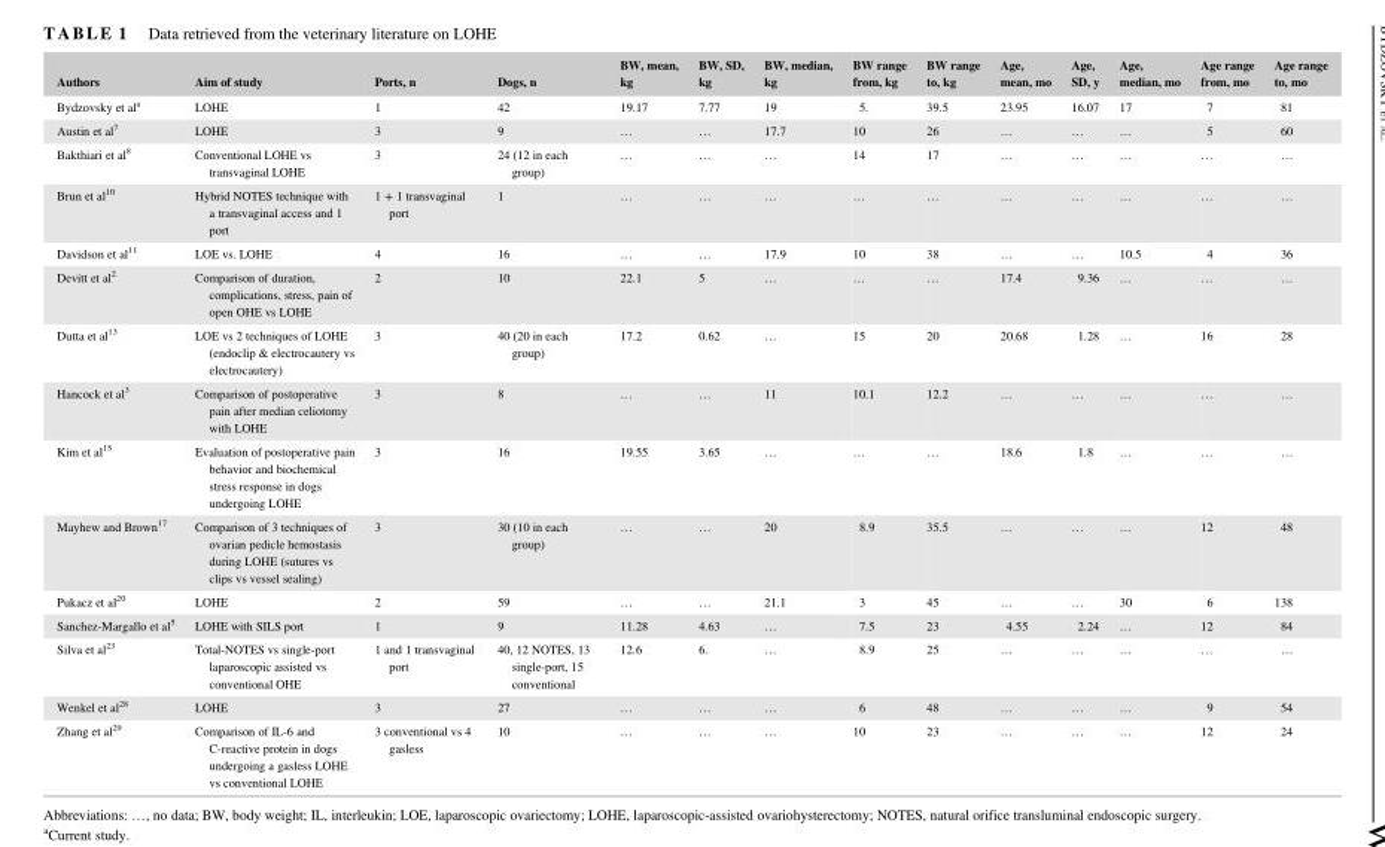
<table><thead><tr><td>Authors</td><td>Aim of study</td><td>Ports, n</td><td>Dogs, n</td><td>BW, mean, kg</td><td>BW, SD, kg</td><td>BW, median, kg</td><td>BW range from, kg</td><td>BW range to, kg</td><td>Age, mean, mo</td><td>Age, SD, y</td><td>Age, median, mo</td><td>Age range from, mo</td><td>Age range to, mo</td></tr></thead><tbody><tr><td>Bydzovsky et al<sup>a</sup></td><td>LOHE</td><td>1</td><td>42</td><td>19.17</td><td>7.77</td><td>19</td><td>5.</td><td>39.5</td><td>23.95</td><td>16.07</td><td>17</td><td>7</td><td>81</td></tr><tr><td>Austin et al<sup>7</sup></td><td>LOHE</td><td>3</td><td>9</td><td>…</td><td>…</td><td>17.7</td><td>10</td><td>26</td><td>…</td><td>…</td><td>…</td><td>5</td><td>60</td></tr><tr><td>Bakthiari et al<sup>8</sup></td><td>Conventional LOHE vs transvaginal LOHE</td><td>3</td><td>24 (12 in each group)</td><td>…</td><td>…</td><td>…</td><td>14</td><td>17</td><td>…</td><td>…</td><td>…</td><td>…</td><td>…</td></tr><tr><td>Brun et al<sup>10</sup></td><td>Hybrid NOTES technique with a transvaginal access and 1 port</td><td>1 + 1 transvaginal port</td><td>1</td><td>…</td><td>…</td><td>…</td><td>…</td><td>…</td><td>…</td><td>…</td><td>…</td><td>…</td><td>…</td></tr><tr><td>Davidson et al<sup>11</sup></td><td>LOE vs. LOHE</td><td>4</td><td>16</td><td>…</td><td>…</td><td>17.9</td><td>10</td><td>38</td><td>…</td><td>…</td><td>10.5</td><td>4</td><td>36</td></tr><tr><td>Devitt et al<sup>2</sup></td><td>Comparison of duration, complications, stress, pain of open OHE vs LOHE</td><td>2</td><td>10</td><td>22.1</td><td>5</td><td>…</td><td>…</td><td>…</td><td>17.4</td><td>9.36</td><td>…</td><td>…</td><td>…</td></tr><tr><td>Dutta et al<sup>13</sup></td><td>LOE vs 2 techniques of LOHE (endoclip &amp; electrocautery vs electrocautery)</td><td>3</td><td>40 (20 in each group)</td><td>17.2</td><td>0.62</td><td>…</td><td>15</td><td>20</td><td>20.68</td><td>1.28</td><td>…</td><td>16</td><td>28</td></tr><tr><td>Hancock et al<sup>3</sup></td><td>Comparison of postoperative pain after median celiotomy with LOHE</td><td>3</td><td>8</td><td>…</td><td>…</td><td>11</td><td>10.1</td><td>12.2</td><td>…</td><td>…</td><td>…</td><td>…</td><td>…</td></tr><tr><td>Kim et al<sup>15</sup></td><td>Evaluation of postoperative pain behavior and biochemical stress response in dogs undergoing LOHE</td><td>3</td><td>16</td><td>19.55</td><td>3.65</td><td>…</td><td>…</td><td>…</td><td>18.6</td><td>1.8</td><td>…</td><td>…</td><td>…</td></tr><tr><td>Mayhew and Brown<sup>17</sup></td><td>Comparison of 3 techniques of ovarian pedicle hemostasis during LOHE (sutures vs clips vs vessel sealing)</td><td>3</td><td>30 (10 in each group)</td><td>…</td><td>…</td><td>20</td><td>8.9</td><td>35.5</td><td>…</td><td>…</td><td>…</td><td>12</td><td>48</td></tr><tr><td>Pukacz et al<sup>20</sup></td><td>LOHE</td><td>2</td><td>59</td><td>…</td><td>…</td><td>21.1</td><td>3</td><td>45</td><td>…</td><td>…</td><td>30</td><td>6</td><td>138</td></tr><tr><td>Sanchez-Margallo et al<sup>5</sup></td><td>LOHE with SILS port</td><td>1</td><td>9</td><td>11.28</td><td>4.63</td><td>…</td><td>7.5</td><td>23</td><td>4.55</td><td>2.24</td><td>…</td><td>12</td><td>84</td></tr><tr><td>Silva et al<sup>23</sup></td><td>Total-NOTES vs single-port laparoscopic assisted vs conventional OHE</td><td>1 and 1 transvaginal port</td><td>40, 12 NOTES, 13 single-port, 15 conventional</td><td>12.6</td><td>6.</td><td>…</td><td>8.9</td><td>25</td><td>…</td><td>…</td><td>…</td><td>…</td><td>…</td></tr><tr><td>Wenkel et al<sup>28</sup></td><td>LOHE</td><td>3</td><td>27</td><td>…</td><td>…</td><td>…</td><td>6</td><td>48</td><td>…</td><td>…</td><td>…</td><td>9</td><td>54</td></tr><tr><td>Zhang et al<sup>29</sup></td><td>Comparison of IL-6 and C-reactive protein in dogs undergoing a gasless LOHE vs conventional LOHE</td><td>3 conventional vs 4 gasless</td><td>10</td><td>…</td><td>…</td><td>…</td><td>10</td><td>23</td><td>…</td><td>…</td><td>…</td><td>12</td><td>24</td></tr></tbody></table>